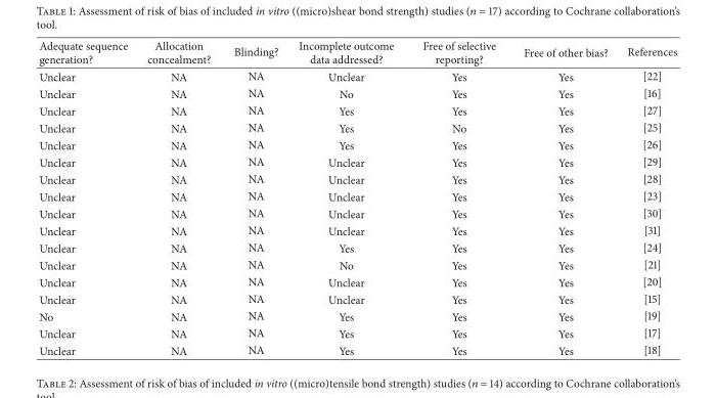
<table><thead><tr><td>Adequate sequence generation?</td><td>Allocation concealment?</td><td>Blinding?</td><td>Incomplete outcome data addressed?</td><td>Free of selective reporting?</td><td>Free of other bias?</td><td>References</td></tr></thead><tbody><tr><td>Unclear</td><td>NA</td><td>NA</td><td>Unclear</td><td>Yes</td><td>Yes</td><td>[22]</td></tr><tr><td>Unclear</td><td>NA</td><td>NA</td><td>No</td><td>Yes</td><td>Yes</td><td>[16]</td></tr><tr><td>Unclear</td><td>NA</td><td>NA</td><td>Yes</td><td>Yes</td><td>Yes</td><td>[27]</td></tr><tr><td>Unclear</td><td>NA</td><td>NA</td><td>Yes</td><td>No</td><td>Yes</td><td>[25]</td></tr><tr><td>Unclear</td><td>NA</td><td>NA</td><td>Yes</td><td>Yes</td><td>Yes</td><td>[26]</td></tr><tr><td>Unclear</td><td>NA</td><td>NA</td><td>Unclear</td><td>Yes</td><td>Yes</td><td>[29]</td></tr><tr><td>Unclear</td><td>NA</td><td>NA</td><td>Unclear</td><td>Yes</td><td>Yes</td><td>[28]</td></tr><tr><td>Unclear</td><td>NA</td><td>NA</td><td>Unclear</td><td>Yes</td><td>Yes</td><td>[23]</td></tr><tr><td>Unclear</td><td>NA</td><td>NA</td><td>Unclear</td><td>Yes</td><td>Yes</td><td>[30]</td></tr><tr><td>Unclear</td><td>NA</td><td>NA</td><td>Unclear</td><td>Yes</td><td>Yes</td><td>[31]</td></tr><tr><td>Unclear</td><td>NA</td><td>NA</td><td>Yes</td><td>Yes</td><td>Yes</td><td>[24]</td></tr><tr><td>Unclear</td><td>NA</td><td>NA</td><td>No</td><td>Yes</td><td>Yes</td><td>[21]</td></tr><tr><td>Unclear</td><td>NA</td><td>NA</td><td>Unclear</td><td>Yes</td><td>Yes</td><td>[20]</td></tr><tr><td>Unclear</td><td>NA</td><td>NA</td><td>Unclear</td><td>Yes</td><td>Yes</td><td>[15]</td></tr><tr><td>No</td><td>NA</td><td>NA</td><td>Yes</td><td>Yes</td><td>Yes</td><td>[19]</td></tr><tr><td>Unclear</td><td>NA</td><td>NA</td><td>Yes</td><td>Yes</td><td>Yes</td><td>[17]</td></tr><tr><td>Unclear</td><td>NA</td><td>NA</td><td>Yes</td><td>Yes</td><td>Yes</td><td>[18]</td></tr></tbody></table>